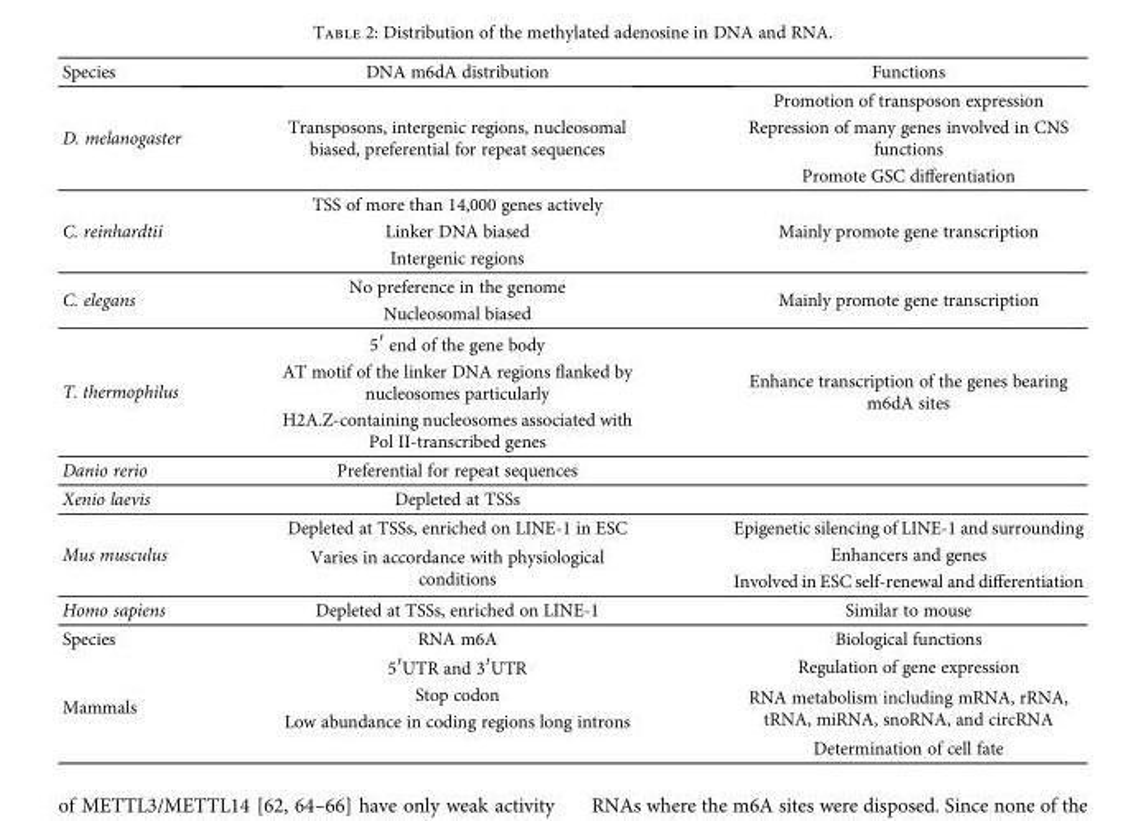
<table><thead><tr><td>Species</td><td>DNA m6dA distribution</td><td>Functions</td></tr></thead><tbody><tr><td rowspan="3">D. melanogaster</td><td rowspan="3">Transposons, intergenic regions, nucleosomal biased, preferential for repeat sequences</td><td>Promotion of transposon expression</td></tr><tr><td>Repression of many genes involved in CNS functions</td></tr><tr><td>Promote GSC differentiation</td></tr><tr><td rowspan="3">C. reinhardtii</td><td>TSS of more than 14,000 genes actively</td><td rowspan="3">Mainly promote gene transcription</td></tr><tr><td>Linker DNA biased</td></tr><tr><td>Intergenic regions</td></tr><tr><td rowspan="2">C. elegans</td><td>No preference in the genome</td><td rowspan="2">Mainly promote gene transcription</td></tr><tr><td>Nucleosomal biased</td></tr><tr><td rowspan="3">T. thermophilus</td><td>5′ end of the gene body</td><td rowspan="3">Enhance transcription of the genes bearing m6dA sites</td></tr><tr><td>AT motif of the linker DNA regions flanked by nucleosomes particularly</td></tr><tr><td>H2A.Z-containing nucleosomes associated with Pol II-transcribed genes</td></tr><tr><td>Danio rerio</td><td>Preferential for repeat sequences</td><td></td></tr><tr><td>Xenio laevis</td><td>Depleted at TSSs</td><td></td></tr><tr><td rowspan="3">Mus musculus</td><td>Depleted at TSSs, enriched on LINE-1 in ESC</td><td>Epigenetic silencing of LINE-1 and surrounding</td></tr><tr><td rowspan="2">Varies in accordance with physiological conditions</td><td>Enhancers and genes</td></tr><tr><td>Involved in ESC self-renewal and differentiation</td></tr><tr><td>Homo sapiens</td><td>Depleted at TSSs, enriched on LINE-1</td><td>Similar to mouse</td></tr><tr><td>Species</td><td>RNA m6A</td><td>Biological functions</td></tr><tr><td rowspan="4">Mammals</td><td>5′UTR and 3′UTR</td><td>Regulation of gene expression</td></tr><tr><td>Stop codon</td><td rowspan="2">RNA metabolism including mRNA, rRNA, tRNA, miRNA, snoRNA, and circRNA</td></tr><tr><td>Low abundance in coding regions long introns</td></tr><tr><td></td><td>Determination of cell fate</td></tr></tbody></table>